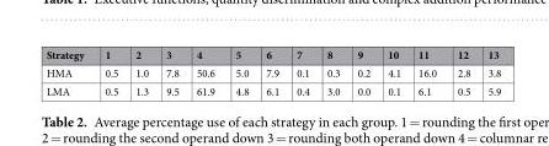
<table><thead><tr><td>Strategy</td><td>1</td><td>2</td><td>3</td><td>4</td><td>5</td><td>6</td><td>7</td><td>8</td><td>9</td><td>10</td><td>11</td><td>12</td><td>13</td></tr></thead><tbody><tr><td>HMA</td><td>0.5</td><td>1.0</td><td>7.8</td><td>50.6</td><td>5.0</td><td>7.9</td><td>0.1</td><td>0.3</td><td>0.2</td><td>4.1</td><td>16.0</td><td>2.8</td><td>3.8</td></tr><tr><td>LMA</td><td>0.5</td><td>1.3</td><td>9.5</td><td>61.9</td><td>4.8</td><td>6.1</td><td>0.4</td><td>3.0</td><td>0.0</td><td>0.1</td><td>6.1</td><td>0.5</td><td>5.9</td></tr></tbody></table>